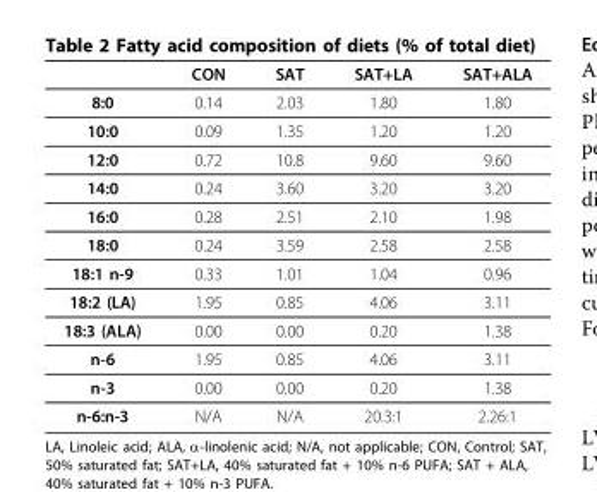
<table><thead><tr><td></td><td>CON</td><td>SAT</td><td>SAT+LA</td><td>SAT+ALA</td></tr></thead><tbody><tr><td>8:0</td><td>0.14</td><td>2.03</td><td>1.80</td><td>1.80</td></tr><tr><td>10:0</td><td>0.09</td><td>1.35</td><td>1.20</td><td>1.20</td></tr><tr><td>12:0</td><td>0.72</td><td>10.8</td><td>9.60</td><td>9.60</td></tr><tr><td>14:0</td><td>0.24</td><td>3.60</td><td>3.20</td><td>3.20</td></tr><tr><td>16:0</td><td>0.28</td><td>2.51</td><td>2.10</td><td>1.98</td></tr><tr><td>18:0</td><td>0.24</td><td>3.59</td><td>2.58</td><td>2.58</td></tr><tr><td>18:1 n-9</td><td>0.33</td><td>1.01</td><td>1.04</td><td>0.96</td></tr><tr><td>18:2 (LA)</td><td>1.95</td><td>0.85</td><td>4.06</td><td>3.11</td></tr><tr><td>18:3 (ALA)</td><td>0.00</td><td>0.00</td><td>0.20</td><td>1.38</td></tr><tr><td>n-6</td><td>1.95</td><td>0.85</td><td>4.06</td><td>3.11</td></tr><tr><td>n-3</td><td>0.00</td><td>0.00</td><td>0.20</td><td>1.38</td></tr><tr><td>n-6:n-3</td><td>N/A</td><td>N/A</td><td>20.3:1</td><td>2.26:1</td></tr></tbody></table>